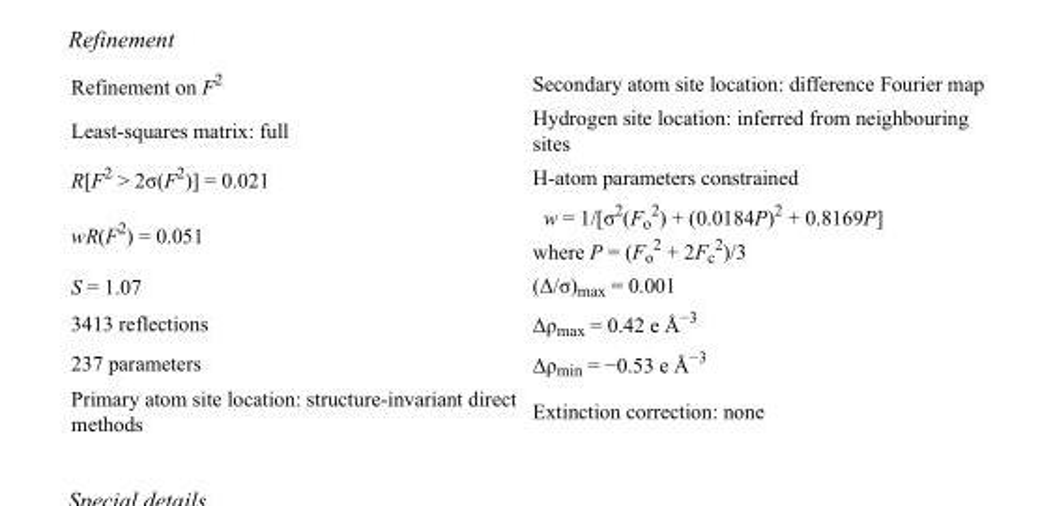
<table><tbody><tr><td>Refinement on F<sup>2</sup></td><td>Secondary atom site location: difference Fourier map</td></tr><tr><td>Least-squares matrix: full</td><td>Hydrogen site location: inferred from neighbouring sites</td></tr><tr><td>R[F<sup>2</sup> &gt; 2σ(F<sup>2</sup>)] = 0.021</td><td>H-atom parameters constrained</td></tr><tr><td>wR(F<sup>2</sup>) = 0.051</td><td>w = 1/[σ<sup>2</sup>(F<sub>o</sub> <sup>2</sup>) + (0.0184P)<sup>2</sup> + 0.8169P] where P = (F<sub>o</sub> <sup>2</sup> + 2F<sub>c</sub> <sup>2</sup>)/3</td></tr><tr><td>S = 1.07</td><td>(Δ/σ)<sub>max</sub> = 0.001</td></tr><tr><td>3413 reflections</td><td>Δρ<sub>max</sub> = 0.42 e Å<sup>−3</sup></td></tr><tr><td>237 parameters</td><td>Δρ<sub>min</sub> = −0.53 e Å<sup>−3</sup></td></tr><tr><td>Primary atom site location: structure-invariant direct methods</td><td>Extinction correction: none</td></tr></tbody></table>